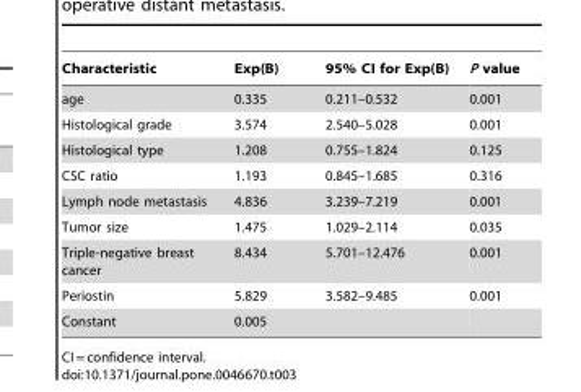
<table><thead><tr><td>Characteristic</td><td>Exp(B)</td><td>95% CI for Exp(B)</td><td>P value</td></tr></thead><tbody><tr><td>age</td><td>0.335</td><td>0.211–0.532</td><td>0.001</td></tr><tr><td>Histological grade</td><td>3.574</td><td>2.540–5.028</td><td>0.001</td></tr><tr><td>Histological type</td><td>1.208</td><td>0.755–1.824</td><td>0.125</td></tr><tr><td>CSC ratio</td><td>1.193</td><td>0.845–1.685</td><td>0.316</td></tr><tr><td>Lymph node metastasis</td><td>4.836</td><td>3.239–7.219</td><td>0.001</td></tr><tr><td>Tumor size</td><td>1.475</td><td>1.029–2.114</td><td>0.035</td></tr><tr><td>Triple-negative breast cancer</td><td>8.434</td><td>5.701–12.476</td><td>0.001</td></tr><tr><td>Periostin</td><td>5.829</td><td>3.582–9.485</td><td>0.001</td></tr><tr><td>Constant</td><td>0.005</td><td></td><td></td></tr></tbody></table>